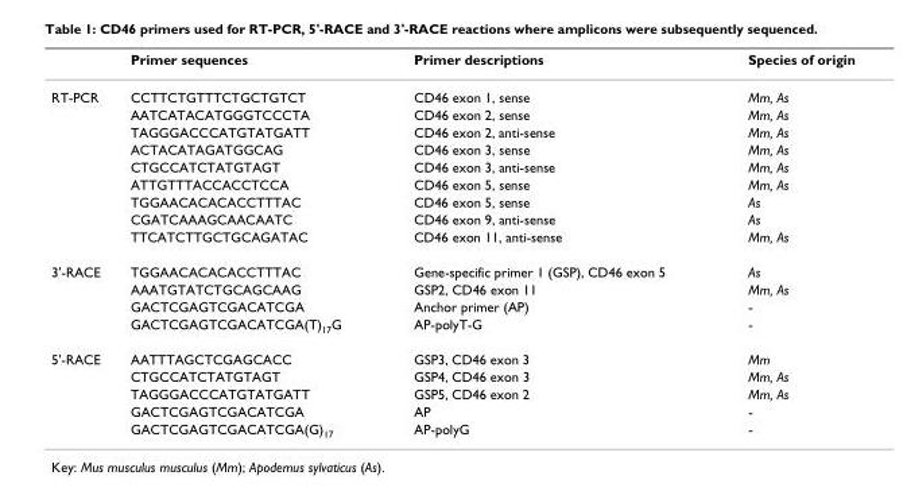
<table><thead><tr><td></td><td>Primer sequences</td><td>Primer descriptions</td><td>Species of origin</td></tr></thead><tbody><tr><td rowspan="9">RT-PCR</td><td>CCTTCTGTTTCTGCTGTCT</td><td>CD46 exon 1, sense</td><td>Mm, As</td></tr><tr><td>AATCATACATGGGTCCCTA</td><td>CD46 exon 2, sense</td><td>Mm, As</td></tr><tr><td>TAGGGACCCATGTATGATT</td><td>CD46 exon 2, anti-sense</td><td>Mm, As</td></tr><tr><td>ACTACATAGATGGCAG</td><td>CD46 exon 3, sense</td><td>Mm, As</td></tr><tr><td>CTGCCATCTATGTAGT</td><td>CD46 exon 3, anti-sense</td><td>Mm, As</td></tr><tr><td>ATTGTTTACCACCTCCA</td><td>CD46 exon 5, sense</td><td>Mm, As</td></tr><tr><td>TGGAACACACACCTTTAC</td><td>CD46 exon 5, sense</td><td>As</td></tr><tr><td>CGATCAAAGCAACAATC</td><td>CD46 exon 9, anti-sense</td><td>As</td></tr><tr><td>TTCATCTTGCTGCAGATAC</td><td>CD46 exon 11, anti-sense</td><td>Mm, As</td></tr><tr><td rowspan="4">3&#x27;-RACE</td><td>TGGAACACACACCTTTAC</td><td>Gene-specific primer 1 (GSP), CD46 exon 5</td><td>As</td></tr><tr><td>AAATGTATCTGCAGCAAG</td><td>GSP2, CD46 exon 11</td><td>Mm, As</td></tr><tr><td>GACTCGAGTCGACATCGA</td><td>Anchor primer (AP)</td><td>-</td></tr><tr><td>GACTCGAGTCGACATCGA(T)<sub>17</sub>G</td><td>AP-polyT-G</td><td>-</td></tr><tr><td rowspan="5">5&#x27;-RACE</td><td>AATTTAGCTCGAGCACC</td><td>GSP3, CD46 exon 3</td><td>Mm</td></tr><tr><td>CTGCCATCTATGTAGT</td><td>GSP4, CD46 exon 3</td><td>Mm, As</td></tr><tr><td>TAGGGACCCATGTATGATT</td><td>GSP5, CD46 exon 2</td><td>Mm, As</td></tr><tr><td>GACTCGAGTCGACATCGA</td><td>AP</td><td>-</td></tr><tr><td>GACTCGAGTCGACATCGA(G)<sub>17</sub></td><td>AP-polyG</td><td>-</td></tr></tbody></table>